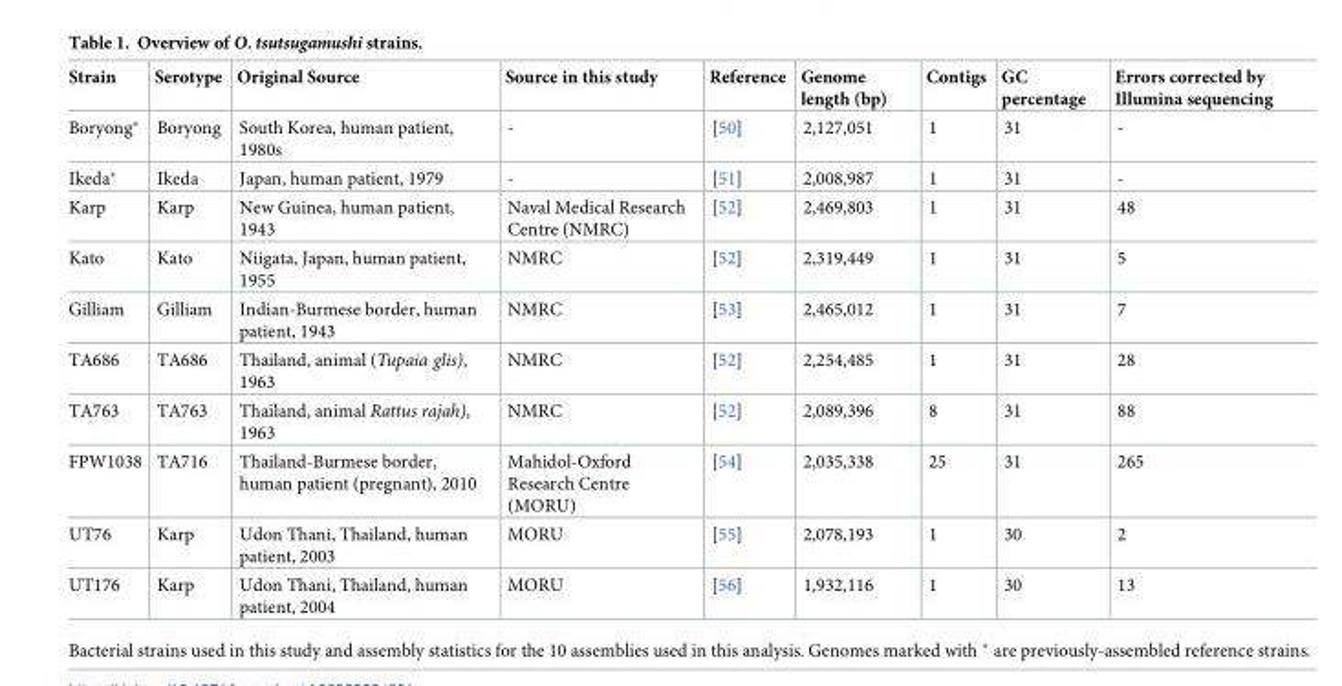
<table><thead><tr><td>Strain</td><td>Serotype</td><td>Original Source</td><td>Source in this study</td><td>Reference</td><td>Genome length (bp)</td><td>Contigs</td><td>GC percentage</td><td>Errors corrected by Illumina sequencing</td></tr></thead><tbody><tr><td>Boryong*</td><td>Boryong</td><td>South Korea, human patient, 1980s</td><td>-</td><td>[50]</td><td>2,127,051</td><td>1</td><td>31</td><td>-</td></tr><tr><td>Ikeda*</td><td>Ikeda</td><td>Japan, human patient, 1979</td><td>-</td><td>[51]</td><td>2,008,987</td><td>1</td><td>31</td><td>-</td></tr><tr><td>Karp</td><td>Karp</td><td>New Guinea, human patient, 1943</td><td>Naval Medical Research Centre (NMRC)</td><td>[52]</td><td>2,469,803</td><td>1</td><td>31</td><td>48</td></tr><tr><td>Kato</td><td>Kato</td><td>Niigata, Japan, human patient, 1955</td><td>NMRC</td><td>[52]</td><td>2,319,449</td><td>1</td><td>31</td><td>5</td></tr><tr><td>Gilliam</td><td>Gilliam</td><td>Indian-Burmese border, human patient, 1943</td><td>NMRC</td><td>[53]</td><td>2,465,012</td><td>1</td><td>31</td><td>7</td></tr><tr><td>TA686</td><td>TA686</td><td>Thailand, animal (Tupaia glis), 1963</td><td>NMRC</td><td>[52]</td><td>2,254,485</td><td>1</td><td>31</td><td>28</td></tr><tr><td>TA763</td><td>TA763</td><td>Thailand, animal Rattus rajah), 1963</td><td>NMRC</td><td>[52]</td><td>2,089,396</td><td>8</td><td>31</td><td>88</td></tr><tr><td>FPW1038</td><td>TA716</td><td>Thailand-Burmese border, human patient (pregnant), 2010</td><td>Mahidol-Oxford Research Centre (MORU)</td><td>[54]</td><td>2,035,338</td><td>25</td><td>31</td><td>265</td></tr><tr><td>UT76</td><td>Karp</td><td>Udon Thani, Thailand, human patient, 2003</td><td>MORU</td><td>[55]</td><td>2,078,193</td><td>1</td><td>30</td><td>2</td></tr><tr><td>UT176</td><td>Karp</td><td>Udon Thani, Thailand, human patient, 2004</td><td>MORU</td><td>[56]</td><td>1,932,116</td><td>1</td><td>30</td><td>13</td></tr></tbody></table>